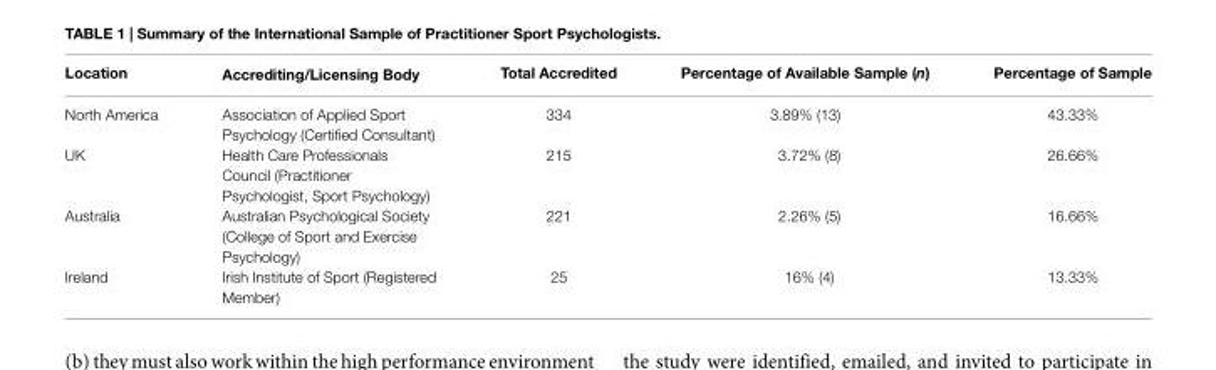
<table><thead><tr><td>Location</td><td>Accrediting/Licensing Body</td><td>Total Accredited</td><td>Percentage of Available Sample (n)</td><td>Percentage of Sample</td></tr></thead><tbody><tr><td>North America</td><td>Association of Applied Sport Psychology (Certified Consultant)</td><td>334</td><td>3.89% (13)</td><td>43.33%</td></tr><tr><td>UK</td><td>Health Care Professionals Council (Practitioner Psychologist, Sport Psychology)</td><td>215</td><td>3.72% (8)</td><td>26.66%</td></tr><tr><td>Australia</td><td>Australian Psychological Society (College of Sport and Exercise Psychology)</td><td>221</td><td>2.26% (5)</td><td>16.66%</td></tr><tr><td>Ireland</td><td>Irish Institute of Sport (Registered Member)</td><td>25</td><td>16% (4)</td><td>13.33%</td></tr></tbody></table>